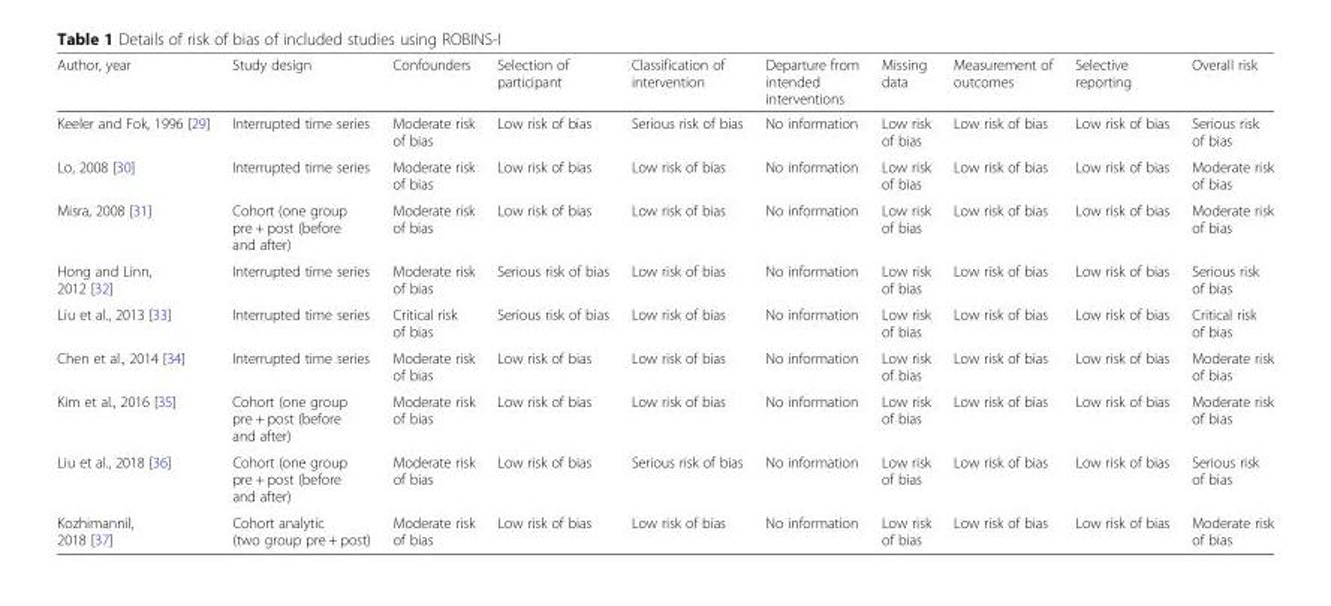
<table><thead><tr><td>Author, year</td><td>Study design</td><td>Confounders</td><td>Selection of participant</td><td>Classification of intervention</td><td>Departure from intended interventions</td><td>Missing data</td><td>Measurement of outcomes</td><td>Selective reporting</td><td>Overall risk</td></tr></thead><tbody><tr><td>Keeler and Fok, 1996 [29]</td><td>Interrupted time series</td><td>Moderate risk of bias</td><td>Low risk of bias</td><td>Serious risk of bias</td><td>No information</td><td>Low risk of bias</td><td>Low risk of bias</td><td>Low risk of bias</td><td>Serious risk of bias</td></tr><tr><td>Lo, 2008 [30]</td><td>Interrupted time series</td><td>Moderate risk of bias</td><td>Low risk of bias</td><td>Low risk of bias</td><td>No information</td><td>Low risk of bias</td><td>Low risk of bias</td><td>Low risk of bias</td><td>Moderate risk of bias</td></tr><tr><td>Misra, 2008 [31]</td><td>Cohort (one group pre + post (before and after)</td><td>Moderate risk of bias</td><td>Low risk of bias</td><td>Low risk of bias</td><td>No information</td><td>Low risk of bias</td><td>Low risk of bias</td><td>Low risk of bias</td><td>Moderate risk of bias</td></tr><tr><td>Hong and Linn, 2012 [32]</td><td>Interrupted time series</td><td>Moderate risk of bias</td><td>Serious risk of bias</td><td>Low risk of bias</td><td>No information</td><td>Low risk of bias</td><td>Low risk of bias</td><td>Low risk of bias</td><td>Serious risk of bias</td></tr><tr><td>Liu et al., 2013 [33]</td><td>Interrupted time series</td><td>Critical risk of bias</td><td>Serious risk of bias</td><td>Low risk of bias</td><td>No information</td><td>Low risk of bias</td><td>Low risk of bias</td><td>Low risk of bias</td><td>Critical risk of bias</td></tr><tr><td>Chen et al., 2014 [34]</td><td>Interrupted time series</td><td>Moderate risk of bias</td><td>Low risk of bias</td><td>Low risk of bias</td><td>No information</td><td>Low risk of bias</td><td>Low risk of bias</td><td>Low risk of bias</td><td>Moderate risk of bias</td></tr><tr><td>Kim et al., 2016 [35]</td><td>Cohort (one group pre + post (before and after)</td><td>Moderate risk of bias</td><td>Low risk of bias</td><td>Low risk of bias</td><td>No information</td><td>Low risk of bias</td><td>Low risk of bias</td><td>Low risk of bias</td><td>Moderate risk of bias</td></tr><tr><td>Liu et al., 2018 [36]</td><td>Cohort (one group pre + post (before and after)</td><td>Moderate risk of bias</td><td>Low risk of bias</td><td>Serious risk of bias</td><td>No information</td><td>Low risk of bias</td><td>Low risk of bias</td><td>Low risk of bias</td><td>Serious risk of bias</td></tr><tr><td>Kozhimannil, 2018 [37]</td><td>Cohort analytic (two group pre + post)</td><td>Moderate risk of bias</td><td>Low risk of bias</td><td>Low risk of bias</td><td>No information</td><td>Low risk of bias</td><td>Low risk of bias</td><td>Low risk of bias</td><td>Moderate risk of bias</td></tr></tbody></table>